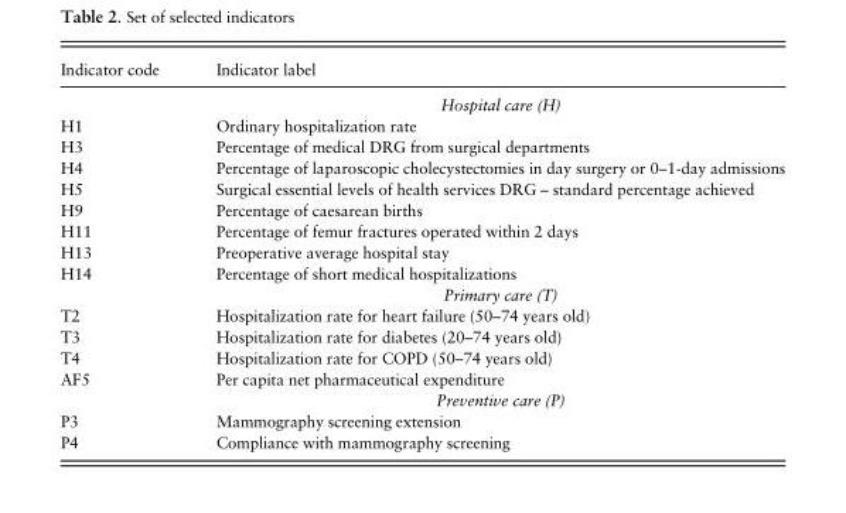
<table><thead><tr><td>Indicator code</td><td>Indicator label</td></tr></thead><tbody><tr><td></td><td>Hospital care (H)</td></tr><tr><td>H1</td><td>Ordinary hospitalization rate</td></tr><tr><td>H3</td><td>Percentage of medical DRG from surgical departments</td></tr><tr><td>H4</td><td>Percentage of laparoscopic cholecystectomies in day surgery or 0–1-day admissions</td></tr><tr><td>H5</td><td>Surgical essential levels of health services DRG – standard percentage achieved</td></tr><tr><td>H9</td><td>Percentage of caesarean births</td></tr><tr><td>H11</td><td>Percentage of femur fractures operated within 2 days</td></tr><tr><td>H13</td><td>Preoperative average hospital stay</td></tr><tr><td rowspan="2">H14</td><td>Percentage of short medical hospitalizations</td></tr><tr><td>Primary care (T)</td></tr><tr><td>T2</td><td>Hospitalization rate for heart failure (50–74 years old)</td></tr><tr><td>T3</td><td>Hospitalization rate for diabetes (20–74 years old)</td></tr><tr><td>T4</td><td>Hospitalization rate for COPD (50–74 years old)</td></tr><tr><td rowspan="2">AF5</td><td>Per capita net pharmaceutical expenditure</td></tr><tr><td>Preventive care (P)</td></tr><tr><td>P3</td><td>Mammography screening extension</td></tr><tr><td>P4</td><td>Compliance with mammography screening</td></tr></tbody></table>